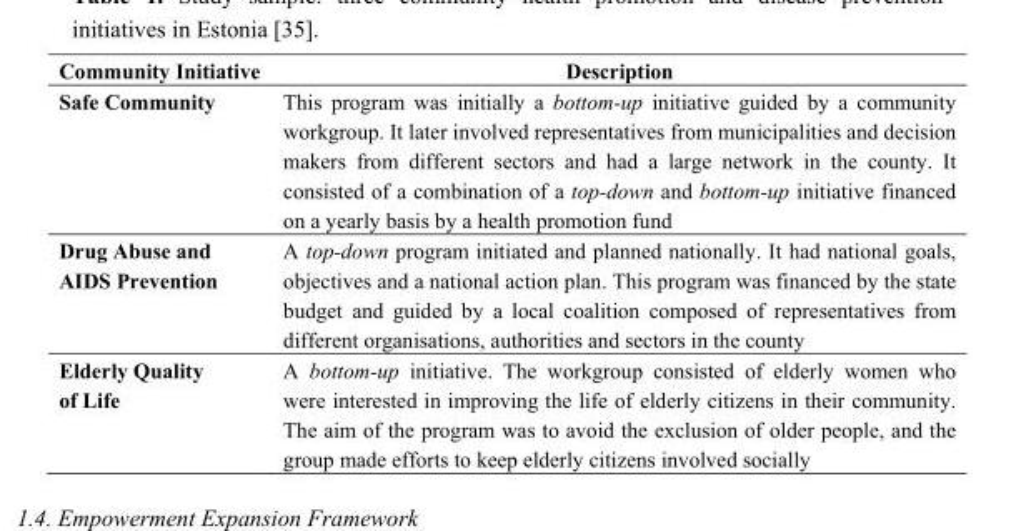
<table><thead><tr><td>Community Initiative</td><td>Description</td></tr></thead><tbody><tr><td>Safe Community</td><td>This program was initially a bottom-up initiative guided by a community workgroup. It later involved representatives from municipalities and decision makers from different sectors and had a large network in the county. It consisted of a combination of a top-down and bottom-up initiative financed on a yearly basis by a health promotion fund</td></tr><tr><td>Drug Abuse and AIDS Prevention</td><td>A top-down program initiated and planned nationally. It had national goals, objectives and a national action plan. This program was financed by the state budget and guided by a local coalition composed of representatives from different organisations, authorities and sectors in the county</td></tr><tr><td>Elderly Quality of Life</td><td>A bottom-up initiative. The workgroup consisted of elderly women who were interested in improving the life of elderly citizens in their community. The aim of the program was to avoid the exclusion of older people, and the group made efforts to keep elderly citizens involved socially</td></tr></tbody></table>